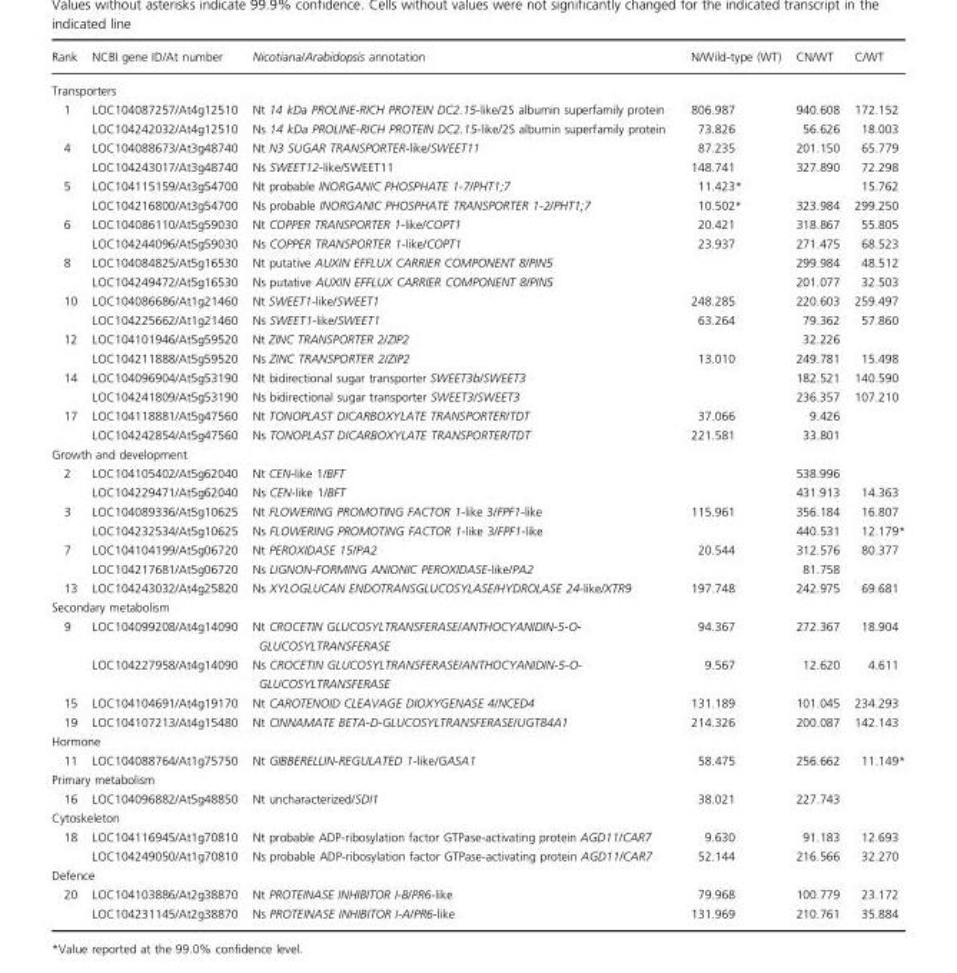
<table><thead><tr><td>Rank</td><td>NCBI gene ID/At number</td><td>Nicotiana/Arabidopsis annotation</td><td>N/Wild-type (WT)</td><td>CN/WT</td><td>C/WT</td></tr></thead><tbody><tr><td colspan="6">Transporters</td></tr><tr><td rowspan="2">1</td><td>LOC104087257/At4g12510</td><td>Nt 14 kDa PROLINE-RICH PROTEIN DC2.15-like/2S albumin superfamily protein</td><td>806.987</td><td>940.608</td><td>172.152</td></tr><tr><td>LOC104242032/At4g12510</td><td>Ns 14 kDa PROLINE-RICH PROTEIN DC2.15-like/2S albumin superfamily protein</td><td>73.826</td><td>56.626</td><td>18.003</td></tr><tr><td rowspan="2">4</td><td>LOC104088673/At3g48740</td><td>Nt N3 SUGAR TRANSPORTER-like/SWEET11</td><td>87.235</td><td>201.150</td><td>65.779</td></tr><tr><td>LOC104243017/At3g48740</td><td>Ns SWEET12-like/SWEET11</td><td>148.741</td><td>327.890</td><td>72.298</td></tr><tr><td rowspan="2">5</td><td>LOC104115159/At3g54700</td><td>Nt probable INORGANIC PHOSPHATE 1-7/PHT1;7</td><td>11.423*</td><td></td><td>15.762</td></tr><tr><td>LOC104216800/At3g54700</td><td>Ns probable INORGANIC PHOSPHATE TRANSPORTER 1-2/PHT1;7</td><td>10.502*</td><td>323.984</td><td>299.250</td></tr><tr><td rowspan="2">6</td><td>LOC104086110/At5g59030</td><td>Nt COPPER TRANSPORTER 1-like/COPT1</td><td>20.421</td><td>318.867</td><td>55.805</td></tr><tr><td>LOC104244096/At5g59030</td><td>Ns COPPER TRANSPORTER 1-like/COPT1</td><td>23.937</td><td>271.475</td><td>68.523</td></tr><tr><td rowspan="2">8</td><td>LOC104084825/At5g16530</td><td>Nt putative AUXIN EFFLUX CARRIER COMPONENT 8/PIN5</td><td></td><td>299.984</td><td>48.512</td></tr><tr><td>LOC104249472/At5g16530</td><td>Ns putative AUXIN EFFLUX CARRIER COMPONENT 8/PIN5</td><td></td><td>201.077</td><td>32.503</td></tr><tr><td rowspan="2">10</td><td>LOC104086686/At1g21460</td><td>Nt SWEET1-like/SWEET1</td><td>248.285</td><td>220.603</td><td>259.497</td></tr><tr><td>LOC104225662/At1g21460</td><td>Ns SWEET1-like/SWEET1</td><td>63.264</td><td>79.362</td><td>57.860</td></tr><tr><td rowspan="2">12</td><td>LOC104101946/At5g59520</td><td>Nt ZINC TRANSPORTER 2/ZIP2</td><td></td><td>32.226</td><td></td></tr><tr><td>LOC104211888/At5g59520</td><td>Ns ZINC TRANSPORTER 2/ZIP2</td><td>13.010</td><td>249.781</td><td>15.498</td></tr><tr><td rowspan="2">14</td><td>LOC104096904/At5g53190</td><td>Nt bidirectional sugar transporter SWEET3b/SWEET3</td><td></td><td>182.521</td><td>140.590</td></tr><tr><td>LOC104241809/At5g53190</td><td>Ns bidirectional sugar transporter SWEET3/SWEET3</td><td></td><td>236.357</td><td>107.210</td></tr><tr><td rowspan="2">17</td><td>LOC104118881/At5g47560</td><td>Nt TONOPLAST DICARBOXYLATE TRANSPORTER/TDT</td><td>37.066</td><td>9.426</td><td></td></tr><tr><td>LOC104242854/At5g47560</td><td>Ns TONOPLAST DICARBOXYLATE TRANSPORTER/TDT</td><td>221.581</td><td>33.801</td><td></td></tr><tr><td colspan="6">Growth and development</td></tr><tr><td rowspan="2">2</td><td>LOC104105402/At5g62040</td><td>Nt CEN-like 1/BFT</td><td></td><td>538.996</td><td></td></tr><tr><td>LOC104229471/At5g62040</td><td>Ns CEN-like 1/BFT</td><td></td><td>431.913</td><td>14.363</td></tr><tr><td rowspan="2">3</td><td>LOC104089336/At5g10625</td><td>Nt FLOWERING PROMOTING FACTOR 1-like 3/FPF1-like</td><td>115.961</td><td>356.184</td><td>16.807</td></tr><tr><td>LOC104232534/At5g10625</td><td>Ns FLOWERING PROMOTING FACTOR 1-like 3/FPF1-like</td><td></td><td>440.531</td><td>12.179*</td></tr><tr><td rowspan="2">7</td><td>LOC104104199/At5g06720</td><td>Nt PEROXIDASE 15/PA2</td><td>20.544</td><td>312.576</td><td>80.377</td></tr><tr><td>LOC104217681/At5g06720</td><td>Ns LIGNON-FORMING ANIONIC PEROXIDASE-like/PA2</td><td></td><td>81.758</td><td></td></tr><tr><td>13</td><td>LOC104243032/At4g25820</td><td>Ns XYLOGLUCAN ENDOTRANSGLUCOSYLASE/HYDROLASE 24-like/XTR9</td><td>197.748</td><td>242.975</td><td>69.681</td></tr><tr><td colspan="6">Secondary metabolism</td></tr><tr><td rowspan="2">9</td><td>LOC104099208/At4g14090</td><td>Nt CROCETIN GLUCOSYLTRANSFERASE/ANTHOCYANIDIN-5-O- GLUCOSYLTRANSFERASE</td><td>94.367</td><td>272.367</td><td>18.904</td></tr><tr><td>LOC104227958/At4g14090</td><td>Ns CROCETIN GLUCOSYLTRANSFERASE/ANTHOCYANIDIN-5-O- GLUCOSYLTRANSFERASE</td><td>9.567</td><td>12.620</td><td>4.611</td></tr><tr><td>15</td><td>LOC104104691/At4g19170</td><td>Nt CAROTENOID CLEAVAGE DIOXYGENASE 4/NCED4</td><td>131.189</td><td>101.045</td><td>234.293</td></tr><tr><td>19</td><td>LOC104107213/At4g15480</td><td>Nt CINNAMATE BETA-D-GLUCOSYLTRANSFERASE/UGT84A1</td><td>214.326</td><td>200.087</td><td>142.143</td></tr><tr><td colspan="6">Hormone</td></tr><tr><td>11</td><td>LOC104088764/At1g75750</td><td>Nt GIBBERELLIN-REGULATED 1-like/GASA1</td><td>58.475</td><td>256.662</td><td>11.149*</td></tr><tr><td colspan="6">Primary metabolism</td></tr><tr><td>16</td><td>LOC104096882/At5g48850</td><td>Nt uncharacterized/SDI1</td><td>38.021</td><td>227.743</td><td></td></tr><tr><td colspan="6">Cytoskeleton</td></tr><tr><td rowspan="2">18</td><td>LOC104116945/At1g70810</td><td>Nt probable ADP-ribosylation factor GTPase-activating protein AGD11/CAR7</td><td>9.630</td><td>91.183</td><td>12.693</td></tr><tr><td>LOC104249050/At1g70810</td><td>Ns probable ADP-ribosylation factor GTPase-activating protein AGD11/CAR7</td><td>52.144</td><td>216.566</td><td>32.270</td></tr><tr><td colspan="6">Defence</td></tr><tr><td rowspan="2">20</td><td>LOC104103886/At2g38870</td><td>Nt PROTEINASE INHIBITOR I-B/PR6-like</td><td>79.968</td><td>100.779</td><td>23.172</td></tr><tr><td>LOC104231145/At2g38870</td><td>Ns PROTEINASE INHIBITOR I-A/PR6-like</td><td>131.969</td><td>210.761</td><td>35.884</td></tr></tbody></table>